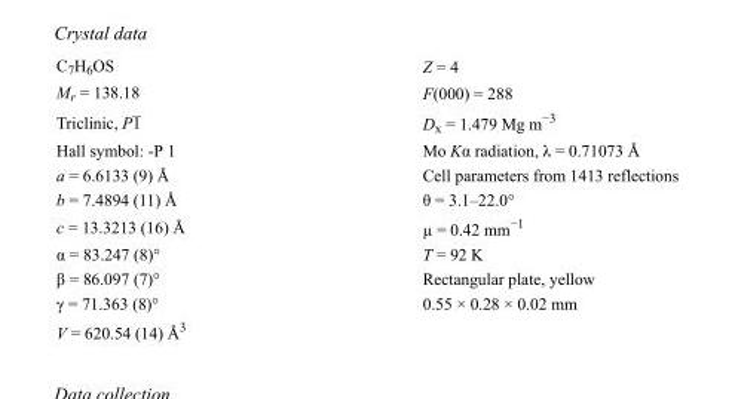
<table><tbody><tr><td>C<sub>7</sub>H<sub>6</sub>OS</td><td>Z = 4</td></tr><tr><td>M<sub>r</sub> = 138.18</td><td>F(000) = 288</td></tr><tr><td>Triclinic, P1</td><td>D<sub>x</sub> = 1.479 Mg m<sup>−3</sup></td></tr><tr><td>Hall symbol: -P 1</td><td>Mo Kα radiation, λ = 0.71073 Å</td></tr><tr><td>a = 6.6133 (9) Å</td><td>Cell parameters from 1413 reflections</td></tr><tr><td>b = 7.4894 (11) Å</td><td>θ = 3.1–22.0°</td></tr><tr><td>c = 13.3213 (16) Å</td><td>µ = 0.42 mm<sup>−1</sup></td></tr><tr><td>α = 83.247 (8)°</td><td>T = 92 K</td></tr><tr><td>β = 86.097 (7)°</td><td>Rectangular plate, yellow</td></tr><tr><td>γ = 71.363 (8)°</td><td>0.55 × 0.28 × 0.02 mm</td></tr><tr><td>V = 620.54 (14) Å<sup>3</sup></td><td></td></tr></tbody></table>